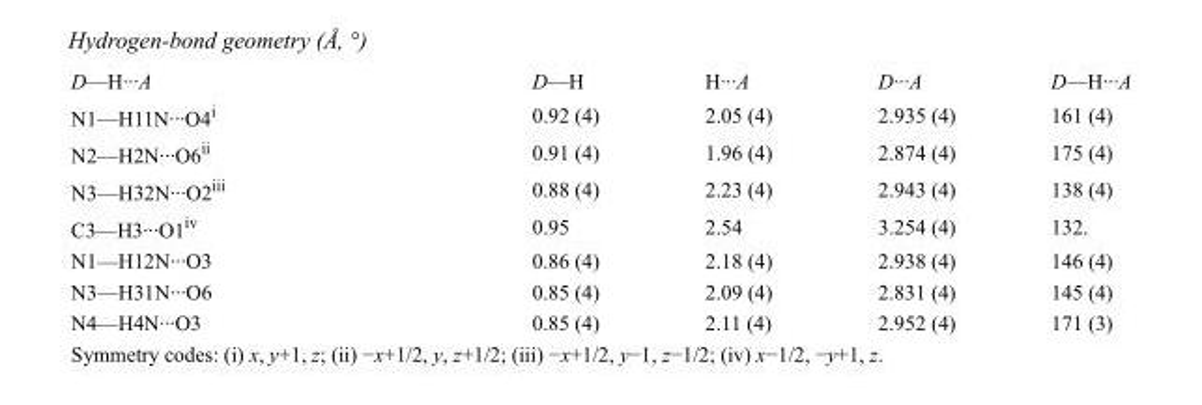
<table><tbody><tr><td>D—H···A</td><td>D—H</td><td>H···A</td><td>D···A</td><td>D—H···A</td></tr><tr><td>N1—H11N···O4<sup>i</sup></td><td>0.92 (4)</td><td>2.05 (4)</td><td>2.935 (4)</td><td>161 (4)</td></tr><tr><td>N2—H2N···O6<sup>ii</sup></td><td>0.91 (4)</td><td>1.96 (4)</td><td>2.874 (4)</td><td>175 (4)</td></tr><tr><td>N3—H32N···O2<sup>iii</sup></td><td>0.88 (4)</td><td>2.23 (4)</td><td>2.943 (4)</td><td>138 (4)</td></tr><tr><td>C3—H3···O1<sup>iv</sup></td><td>0.95</td><td>2.54</td><td>3.254 (4)</td><td>132.</td></tr><tr><td>N1—H12N···O3</td><td>0.86 (4)</td><td>2.18 (4)</td><td>2.938 (4)</td><td>146 (4)</td></tr><tr><td>N3—H31N···O6</td><td>0.85 (4)</td><td>2.09 (4)</td><td>2.831 (4)</td><td>145 (4)</td></tr><tr><td>N4—H4N···O3</td><td>0.85 (4)</td><td>2.11 (4)</td><td>2.952 (4)</td><td>171 (3)</td></tr></tbody></table>